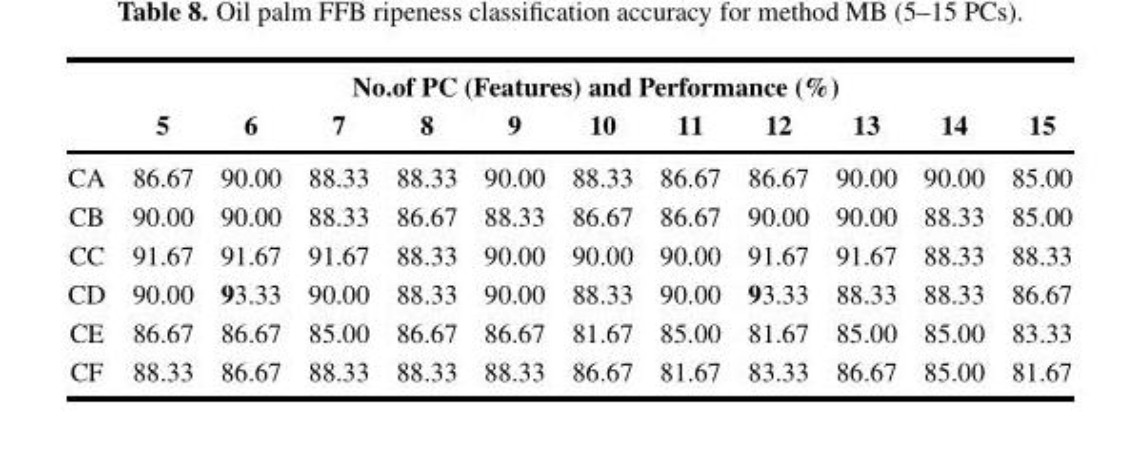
<table><thead><tr><td rowspan="2"></td><td colspan="11">No.of PC (Features) and Performance (%)</td></tr><tr><td>5</td><td>6</td><td>7</td><td>8</td><td>9</td><td>10</td><td>11</td><td>12</td><td>13</td><td>14</td><td>15</td></tr></thead><tbody><tr><td>CA</td><td>86.67</td><td>90.00</td><td>88.33</td><td>88.33</td><td>90.00</td><td>88.33</td><td>86.67</td><td>86.67</td><td>90.00</td><td>90.00</td><td>85.00</td></tr><tr><td>CB</td><td>90.00</td><td>90.00</td><td>88.33</td><td>86.67</td><td>88.33</td><td>86.67</td><td>86.67</td><td>90.00</td><td>90.00</td><td>88.33</td><td>85.00</td></tr><tr><td>CC</td><td>91.67</td><td>91.67</td><td>91.67</td><td>88.33</td><td>90.00</td><td>90.00</td><td>90.00</td><td>91.67</td><td>91.67</td><td>88.33</td><td>88.33</td></tr><tr><td>CD</td><td>90.00</td><td>93.33</td><td>90.00</td><td>88.33</td><td>90.00</td><td>88.33</td><td>90.00</td><td>93.33</td><td>88.33</td><td>88.33</td><td>86.67</td></tr><tr><td>CE</td><td>86.67</td><td>86.67</td><td>85.00</td><td>86.67</td><td>86.67</td><td>81.67</td><td>85.00</td><td>81.67</td><td>85.00</td><td>85.00</td><td>83.33</td></tr><tr><td>CF</td><td>88.33</td><td>86.67</td><td>88.33</td><td>88.33</td><td>88.33</td><td>86.67</td><td>81.67</td><td>83.33</td><td>86.67</td><td>85.00</td><td>81.67</td></tr></tbody></table>